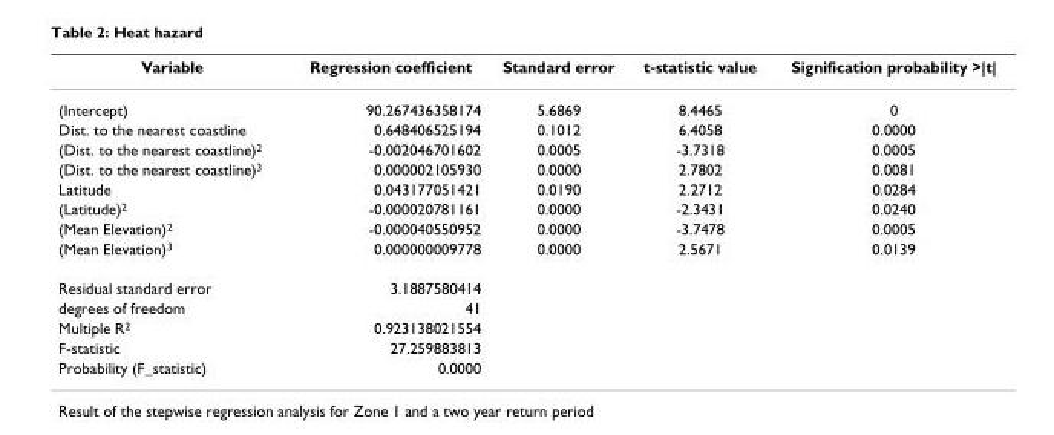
<table><thead><tr><td>Variable</td><td>Regression coefficient</td><td>Standard error</td><td>t-statistic value</td><td>Signification probability &gt;|t|</td></tr></thead><tbody><tr><td>(Intercept)</td><td>90.267436358174</td><td>5.6869</td><td>8.4465</td><td>0</td></tr><tr><td>Dist. to the nearest coastline</td><td>0.648406525194</td><td>0.1012</td><td>6.4058</td><td>0.0000</td></tr><tr><td>(Dist. to the nearest coastline)<sup>2</sup></td><td>-0.002046701602</td><td>0.0005</td><td>-3.7318</td><td>0.0005</td></tr><tr><td>(Dist. to the nearest coastline)<sup>3</sup></td><td>0.000002105930</td><td>0.0000</td><td>2.7802</td><td>0.0081</td></tr><tr><td>Latitude</td><td>0.043177051421</td><td>0.0190</td><td>2.2712</td><td>0.0284</td></tr><tr><td>(Latitude)<sup>2</sup></td><td>-0.000020781161</td><td>0.0000</td><td>-2.3431</td><td>0.0240</td></tr><tr><td>(Mean Elevation)<sup>2</sup></td><td>-0.000040550952</td><td>0.0000</td><td>-3.7478</td><td>0.0005</td></tr><tr><td>(Mean Elevation)<sup>3</sup></td><td>0.000000009778</td><td>0.0000</td><td>2.5671</td><td>0.0139</td></tr><tr><td>Residual standard error</td><td>3.1887580414</td><td></td><td></td><td></td></tr><tr><td>degrees of freedom</td><td>41</td><td></td><td></td><td></td></tr><tr><td>Multiple R<sup>2</sup></td><td>0.923138021554</td><td></td><td></td><td></td></tr><tr><td>F-statistic</td><td>27.259883813</td><td></td><td></td><td></td></tr><tr><td>Probability (F_statistic)</td><td>0.0000</td><td></td><td></td><td></td></tr></tbody></table>